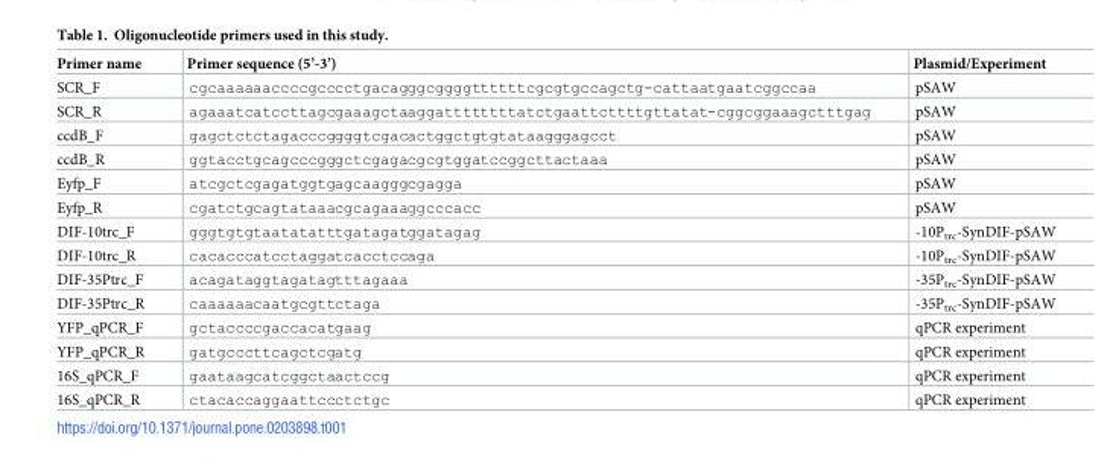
<table><thead><tr><td>Primer name</td><td>Primer sequence (5’-3’)</td><td>Plasmid/Experiment</td></tr></thead><tbody><tr><td>SCR_F</td><td>cgcaaaaaaccccgcccctgacagggcggggttttttcgcgtgccagctg-cattaatgaatcggccaa</td><td>pSAW</td></tr><tr><td>SCR_R</td><td>agaaatcatccttagcgaaagctaaggattttttttatctgaattcttttgttatat-cggcggaaagctttgag</td><td>pSAW</td></tr><tr><td>ccdB_F</td><td>gagctctctagacccggggtcgacactggctgtgtataagggagcct</td><td>pSAW</td></tr><tr><td>ccdB_R</td><td>ggtacctgcagcccgggctcgagacgcgtggatccggcttactaaa</td><td>pSAW</td></tr><tr><td>Eyfp_F</td><td>atcgctcgagatggtgagcaagggcgagga</td><td>pSAW</td></tr><tr><td>Eyfp_R</td><td>cgatctgcagtataaacgcagaaaggcccacc</td><td>pSAW</td></tr><tr><td>DIF-10trc_F</td><td>gggtgtgtaatatatttgatagatggatagag</td><td>-10P<sub>trc</sub>-SynDIF-pSAW</td></tr><tr><td>DIF-10trc_R</td><td>cacacccatcctaggatcacctccaga</td><td>-10P<sub>trc</sub>-SynDIF-pSAW</td></tr><tr><td>DIF-35Ptrc_F</td><td>acagataggtagatagtttagaaa</td><td>-35P<sub>trc</sub>-SynDIF-pSAW</td></tr><tr><td>DIF-35Ptrc_R</td><td>caaaaaacaatgcgttctaga</td><td>-35P<sub>trc</sub>-SynDIF-pSAW</td></tr><tr><td>YFP_qPCR_F</td><td>gctaccccgaccacatgaag</td><td>qPCR experiment</td></tr><tr><td>YFP_qPCR_R</td><td>gatgcccttcagctcgatg</td><td>qPCR experiment</td></tr><tr><td>16S_qPCR_F</td><td>gaataagcatcggctaactccg</td><td>qPCR experiment</td></tr><tr><td>16S_qPCR_R</td><td>ctacaccaggaattccctctgc</td><td>qPCR experiment</td></tr></tbody></table>